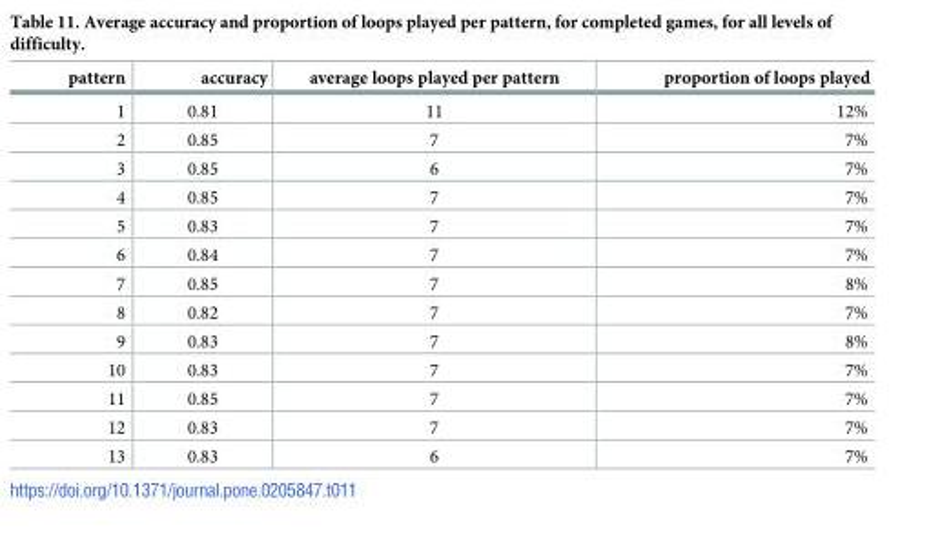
<table><thead><tr><td>pattern</td><td>accuracy</td><td>average loops played per pattern</td><td>proportion of loops played</td></tr></thead><tbody><tr><td>1</td><td>0.81</td><td>11</td><td>12%</td></tr><tr><td>2</td><td>0.85</td><td>7</td><td>7%</td></tr><tr><td>3</td><td>0.85</td><td>6</td><td>7%</td></tr><tr><td>4</td><td>0.85</td><td>7</td><td>7%</td></tr><tr><td>5</td><td>0.83</td><td>7</td><td>7%</td></tr><tr><td>6</td><td>0.84</td><td>7</td><td>7%</td></tr><tr><td>7</td><td>0.85</td><td>7</td><td>8%</td></tr><tr><td>8</td><td>0.82</td><td>7</td><td>7%</td></tr><tr><td>9</td><td>0.83</td><td>7</td><td>8%</td></tr><tr><td>10</td><td>0.83</td><td>7</td><td>7%</td></tr><tr><td>11</td><td>0.85</td><td>7</td><td>7%</td></tr><tr><td>12</td><td>0.83</td><td>7</td><td>7%</td></tr><tr><td>13</td><td>0.83</td><td>6</td><td>7%</td></tr></tbody></table>